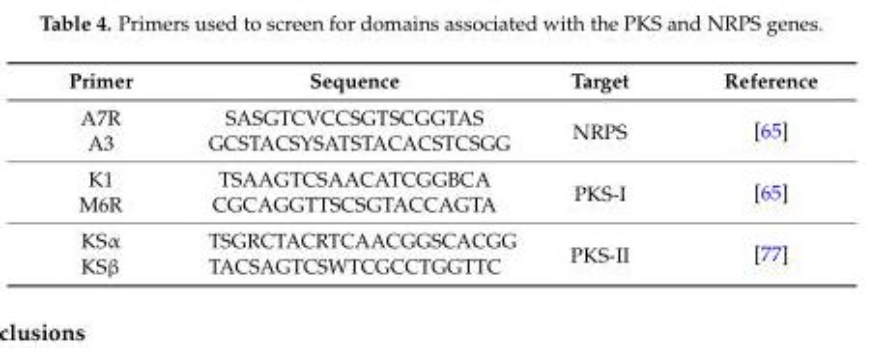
<table><thead><tr><td>Primer</td><td>Sequence</td><td>Target</td><td>Reference</td></tr></thead><tbody><tr><td>A7R</td><td>SASGTCVCCSGTSCGGTAS</td><td rowspan="2">NRPS</td><td rowspan="2">[65]</td></tr><tr><td>A3</td><td>GCSTACSYSATSTACACSTCSGG</td></tr><tr><td>K1</td><td>TSAAGTCSAACATCGGBCA</td><td rowspan="2">PKS-I</td><td rowspan="2">[65]</td></tr><tr><td>M6R</td><td>CGCAGGTTSCSGTACCAGTA</td></tr><tr><td>KSα</td><td>TSGRCTACRTCAACGGSCACGG</td><td rowspan="2">PKS-II</td><td rowspan="2">[77]</td></tr><tr><td>KSβ</td><td>TACSAGTCSWTCGCCTGGTTC</td></tr></tbody></table>